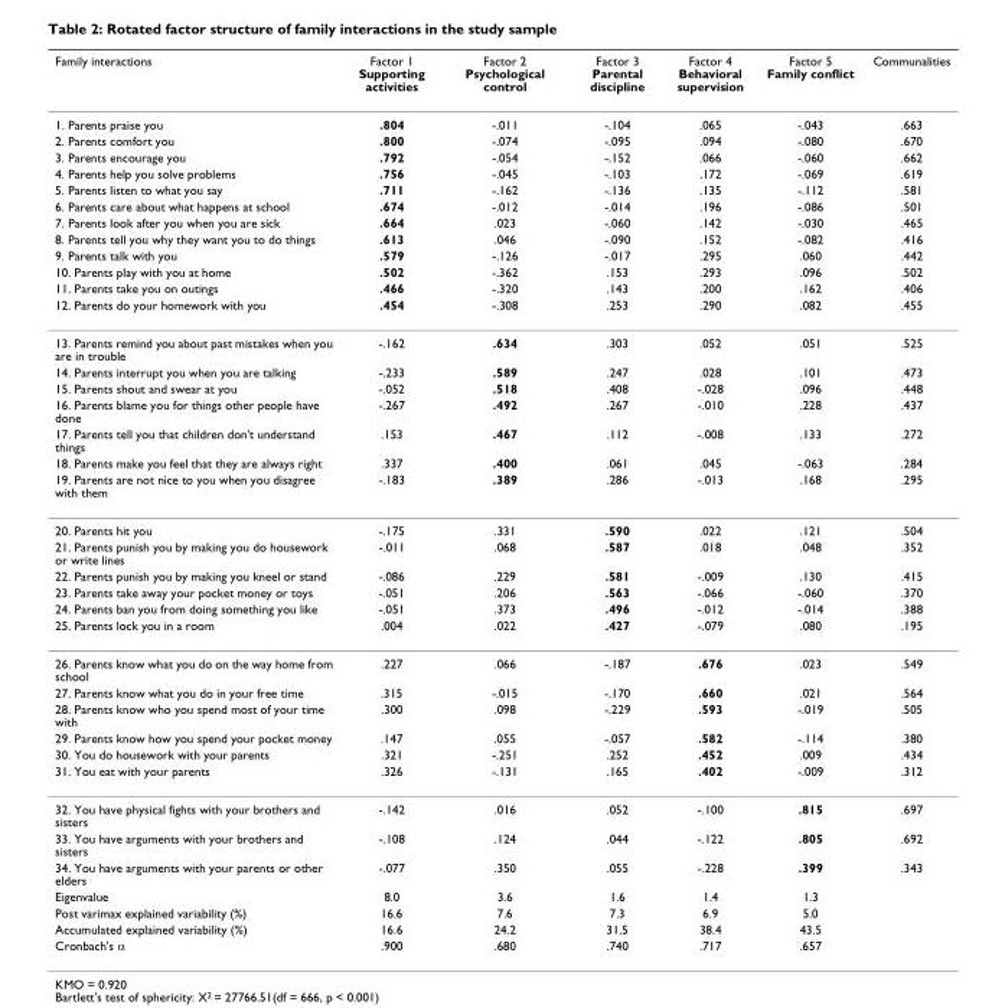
<table><thead><tr><td>Family interactions</td><td>Factor 1 Supporting activities</td><td>Factor 2 Psychological control</td><td>Factor 3 Parental discipline</td><td>Factor 4 Behavioral supervision</td><td>Factor 5 Family conflict</td><td>Communalities</td></tr></thead><tbody><tr><td>1. Parents praise you</td><td>.804</td><td>-.011</td><td>-.104</td><td>.065</td><td>-.043</td><td>.663</td></tr><tr><td>2. Parents comfort you</td><td>.800</td><td>-.074</td><td>-.095</td><td>.094</td><td>-.080</td><td>.670</td></tr><tr><td>3. Parents encourage you</td><td>.792</td><td>-.054</td><td>-.152</td><td>.066</td><td>-.060</td><td>.662</td></tr><tr><td>4. Parents help you solve problems</td><td>.756</td><td>-.045</td><td>-.103</td><td>.172</td><td>-.069</td><td>.619</td></tr><tr><td>5. Parents listen to what you say</td><td>.711</td><td>-.162</td><td>-.136</td><td>.135</td><td>-.112</td><td>.581</td></tr><tr><td>6. Parents care about what happens at school</td><td>.674</td><td>-.012</td><td>-.014</td><td>.196</td><td>-.086</td><td>.501</td></tr><tr><td>7. Parents look after you when you are sick</td><td>.664</td><td>.023</td><td>-.060</td><td>.142</td><td>-.030</td><td>.465</td></tr><tr><td>8. Parents tell you why they want you to do things</td><td>.613</td><td>.046</td><td>-.090</td><td>.152</td><td>-.082</td><td>.416</td></tr><tr><td>9. Parents talk with you</td><td>.579</td><td>-.126</td><td>-.017</td><td>.295</td><td>.060</td><td>.442</td></tr><tr><td>10. Parents play with you at home</td><td>.502</td><td>-.362</td><td>.153</td><td>.293</td><td>.096</td><td>.502</td></tr><tr><td>11. Parents take you on outings</td><td>.466</td><td>-.320</td><td>.143</td><td>.200</td><td>.162</td><td>.406</td></tr><tr><td>12. Parents do your homework with you</td><td>.454</td><td>-.308</td><td>.253</td><td>.290</td><td>.082</td><td>.455</td></tr><tr><td>13. Parents remind you about past mistakes when you are in trouble</td><td>-.162</td><td>.634</td><td>.303</td><td>.052</td><td>.051</td><td>.525</td></tr><tr><td>14. Parents interrupt you when you are talking</td><td>-.233</td><td>.589</td><td>.247</td><td>.028</td><td>.101</td><td>.473</td></tr><tr><td>15. Parents shout and swear at you</td><td>-.052</td><td>.518</td><td>.408</td><td>-.028</td><td>.096</td><td>.448</td></tr><tr><td>16. Parents blame you for things other people have done</td><td>-.267</td><td>.492</td><td>.267</td><td>-.010</td><td>.228</td><td>.437</td></tr><tr><td>17. Parents tell you that children don&#x27;t understand things</td><td>.153</td><td>.467</td><td>.112</td><td>-.008</td><td>.133</td><td>.272</td></tr><tr><td>18. Parents make you feel that they are always right</td><td>.337</td><td>.400</td><td>.061</td><td>.045</td><td>-.063</td><td>.284</td></tr><tr><td>19. Parents are not nice to you when you disagree with them</td><td>-.183</td><td>.389</td><td>.286</td><td>-.013</td><td>.168</td><td>.295</td></tr><tr><td>20. Parents hit you</td><td>-.175</td><td>.331</td><td>.590</td><td>.022</td><td>.121</td><td>.504</td></tr><tr><td>21. Parents punish you by making you do housework or write lines</td><td>-.011</td><td>.068</td><td>.587</td><td>.018</td><td>.048</td><td>.352</td></tr><tr><td>22. Parents punish you by making you kneel or stand</td><td>-.086</td><td>.229</td><td>.581</td><td>-.009</td><td>.130</td><td>.415</td></tr><tr><td>23. Parents take away your pocket money or toys</td><td>-.051</td><td>.206</td><td>.563</td><td>-.066</td><td>-.060</td><td>.370</td></tr><tr><td>24. Parents ban you from doing something you like</td><td>-.051</td><td>.373</td><td>.496</td><td>-.012</td><td>-.014</td><td>.388</td></tr><tr><td>25. Parents lock you in a room</td><td>.004</td><td>.022</td><td>.427</td><td>-.079</td><td>.080</td><td>.195</td></tr><tr><td>26. Parents know what you do on the way home from school</td><td>.227</td><td>.066</td><td>-.187</td><td>.676</td><td>.023</td><td>.549</td></tr><tr><td>27. Parents know what you do in your free time</td><td>.315</td><td>-.015</td><td>-.170</td><td>.660</td><td>.021</td><td>.564</td></tr><tr><td>28. Parents know who you spend most of your time with</td><td>.300</td><td>.098</td><td>-.229</td><td>.593</td><td>-.019</td><td>.505</td></tr><tr><td>29. Parents know how you spend your pocket money</td><td>.147</td><td>.055</td><td>-.057</td><td>.582</td><td>-.114</td><td>.380</td></tr><tr><td>30. You do housework with your parents</td><td>.321</td><td>-.251</td><td>.252</td><td>.452</td><td>.009</td><td>.434</td></tr><tr><td>31. You eat with your parents</td><td>.326</td><td>-.131</td><td>.165</td><td>.402</td><td>-.009</td><td>.312</td></tr><tr><td>32. You have physical fights with your brothers and sisters</td><td>-.142</td><td>.016</td><td>.052</td><td>-.100</td><td>.815</td><td>.697</td></tr><tr><td>33. You have arguments with your brothers and sisters</td><td>-.108</td><td>.124</td><td>.044</td><td>-.122</td><td>.805</td><td>.692</td></tr><tr><td>34. You have arguments with your parents or other elders</td><td>-.077</td><td>.350</td><td>.055</td><td>-.228</td><td>.399</td><td>.343</td></tr><tr><td>Eigenvalue</td><td>8.0</td><td>3.6</td><td>1.6</td><td>1.4</td><td>1.3</td><td></td></tr><tr><td>Post varimax explained variability (%)</td><td>16.6</td><td>7.6</td><td>7.3</td><td>6.9</td><td>5.0</td><td></td></tr><tr><td>Accumulated explained variability (%)</td><td>16.6</td><td>24.2</td><td>31.5</td><td>38.4</td><td>43.5</td><td></td></tr><tr><td>Cronbach&#x27;s α</td><td>.900</td><td>.680</td><td>.740</td><td>.717</td><td>.657</td><td></td></tr></tbody></table>